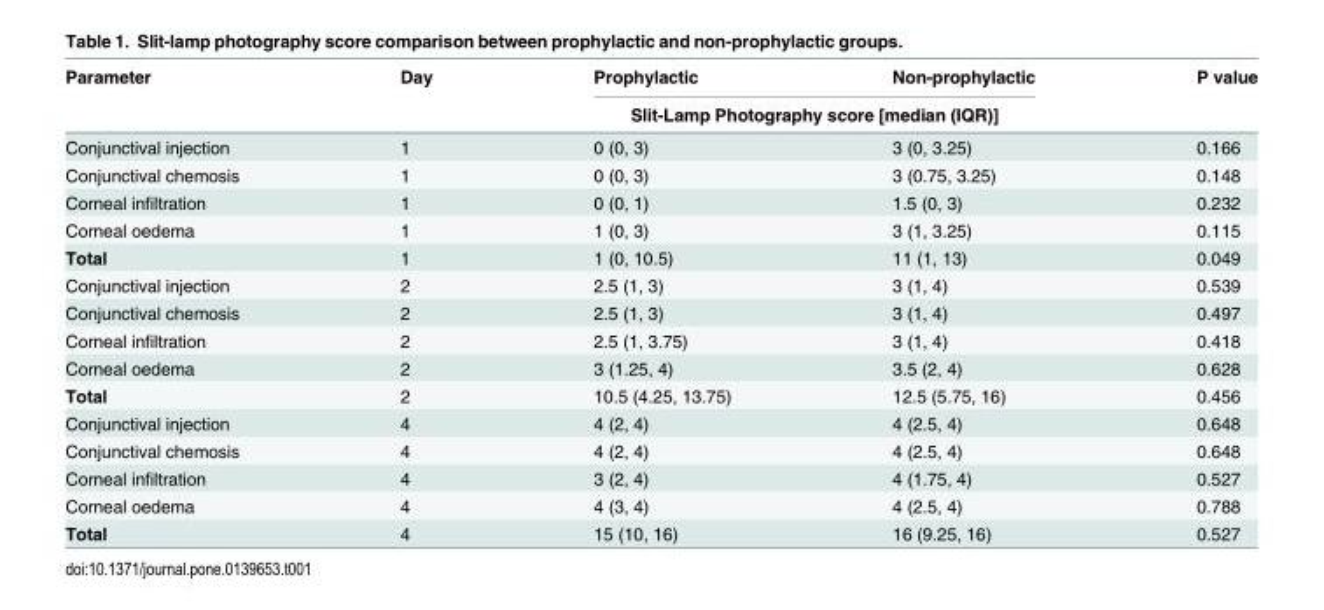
<table><thead><tr><td rowspan="2">Parameter</td><td rowspan="2">Day</td><td>Prophylactic</td><td>Non-prophylactic</td><td rowspan="2">P value</td></tr><tr><td colspan="2">Slit-Lamp Photography score [median (IQR)]</td></tr></thead><tbody><tr><td>Conjunctival injection</td><td>1</td><td>0 (0, 3)</td><td>3 (0, 3.25)</td><td>0.166</td></tr><tr><td>Conjunctival chemosis</td><td>1</td><td>0 (0, 3)</td><td>3 (0.75, 3.25)</td><td>0.148</td></tr><tr><td>Corneal infiltration</td><td>1</td><td>0 (0, 1)</td><td>1.5 (0, 3)</td><td>0.232</td></tr><tr><td>Corneal oedema</td><td>1</td><td>1 (0, 3)</td><td>3 (1, 3.25)</td><td>0.115</td></tr><tr><td>Total</td><td>1</td><td>1 (0, 10.5)</td><td>11 (1, 13)</td><td>0.049</td></tr><tr><td>Conjunctival injection</td><td>2</td><td>2.5 (1, 3)</td><td>3 (1, 4)</td><td>0.539</td></tr><tr><td>Conjunctival chemosis</td><td>2</td><td>2.5 (1, 3)</td><td>3 (1, 4)</td><td>0.497</td></tr><tr><td>Corneal infiltration</td><td>2</td><td>2.5 (1, 3.75)</td><td>3 (1, 4)</td><td>0.418</td></tr><tr><td>Corneal oedema</td><td>2</td><td>3 (1.25, 4)</td><td>3.5 (2, 4)</td><td>0.628</td></tr><tr><td>Total</td><td>2</td><td>10.5 (4.25, 13.75)</td><td>12.5 (5.75, 16)</td><td>0.456</td></tr><tr><td>Conjunctival injection</td><td>4</td><td>4 (2, 4)</td><td>4 (2.5, 4)</td><td>0.648</td></tr><tr><td>Conjunctival chemosis</td><td>4</td><td>4 (2, 4)</td><td>4 (2.5, 4)</td><td>0.648</td></tr><tr><td>Corneal infiltration</td><td>4</td><td>3 (2, 4)</td><td>4 (1.75, 4)</td><td>0.527</td></tr><tr><td>Corneal oedema</td><td>4</td><td>4 (3, 4)</td><td>4 (2.5, 4)</td><td>0.788</td></tr><tr><td>Total</td><td>4</td><td>15 (10, 16)</td><td>16 (9.25, 16)</td><td>0.527</td></tr></tbody></table>